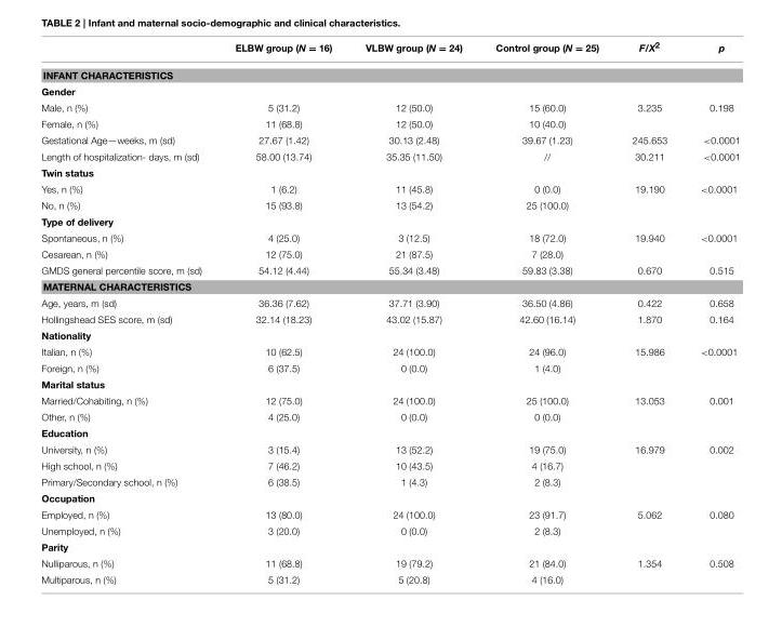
<table><thead><tr><td></td><td>ELBW group (N = 16)</td><td>VLBW group (N = 24)</td><td>Control group (N = 25)</td><td>F/X<sup>2</sup></td><td>p</td></tr></thead><tbody><tr><td colspan="6">INFANT CHARACTERISTICS</td></tr><tr><td colspan="6">Gender</td></tr><tr><td>Male, n (%)</td><td>5 (31.2)</td><td>12 (50.0)</td><td>15 (60.0)</td><td>3.235</td><td>0.198</td></tr><tr><td>Female, n (%)</td><td>11 (68.8)</td><td>12 (50.0)</td><td>10 (40.0)</td><td></td><td></td></tr><tr><td>Gestational Age—weeks, m (sd)</td><td>27.67 (1.42)</td><td>30.13 (2.48)</td><td>39.67 (1.23)</td><td>245.653</td><td>&lt;0.0001</td></tr><tr><td>Length of hospitalization- days, m (sd)</td><td>58.00 (13.74)</td><td>35.35 (11.50)</td><td>//</td><td>30.211</td><td>&lt;0.0001</td></tr><tr><td colspan="6">Twin status</td></tr><tr><td>Yes, n (%)</td><td>1 (6.2)</td><td>11 (45.8)</td><td>0 (0.0)</td><td>19.190</td><td>&lt;0.0001</td></tr><tr><td>No, n (%)</td><td>15 (93.8)</td><td>13 (54.2)</td><td>25 (100.0)</td><td></td><td></td></tr><tr><td colspan="6">Type of delivery</td></tr><tr><td>Spontaneous, n (%)</td><td>4 (25.0)</td><td>3 (12.5)</td><td>18 (72.0)</td><td>19.940</td><td>&lt;0.0001</td></tr><tr><td>Cesarean, n (%)</td><td>12 (75.0)</td><td>21 (87.5)</td><td>7 (28.0)</td><td></td><td></td></tr><tr><td>GMDS general percentile score, m (sd)</td><td>54.12 (4.44)</td><td>55.34 (3.48)</td><td>59.83 (3.38)</td><td>0.670</td><td>0.515</td></tr><tr><td colspan="6">MATERNAL CHARACTERISTICS</td></tr><tr><td>Age, years, m (sd)</td><td>36.36 (7.62)</td><td>37.71 (3.90)</td><td>36.50 (4.86)</td><td>0.422</td><td>0.658</td></tr><tr><td>Hollingshead SES score, m (sd)</td><td>32.14 (18.23)</td><td>43.02 (15.87)</td><td>42.60 (16.14)</td><td>1.870</td><td>0.164</td></tr><tr><td colspan="6">Nationality</td></tr><tr><td>Italian, n (%)</td><td>10 (62.5)</td><td>24 (100.0)</td><td>24 (96.0)</td><td>15.986</td><td>&lt;0.0001</td></tr><tr><td>Foreign, n (%)</td><td>6 (37.5)</td><td>0 (0.0)</td><td>1 (4.0)</td><td></td><td></td></tr><tr><td colspan="6">Marital status</td></tr><tr><td>Married/Cohabiting, n (%)</td><td>12 (75.0)</td><td>24 (100.0)</td><td>25 (100.0)</td><td>13.053</td><td>0.001</td></tr><tr><td>Other, n (%)</td><td>4 (25.0)</td><td>0 (0.0)</td><td>0 (0.0)</td><td></td><td></td></tr><tr><td colspan="6">Education</td></tr><tr><td>University, n (%)</td><td>3 (15.4)</td><td>13 (52.2)</td><td>19 (75.0)</td><td>16.979</td><td>0.002</td></tr><tr><td>High school, n (%)</td><td>7 (46.2)</td><td>10 (43.5)</td><td>4 (16.7)</td><td></td><td></td></tr><tr><td>Primary/Secondary school, n (%)</td><td>6 (38.5)</td><td>1 (4.3)</td><td>2 (8.3)</td><td></td><td></td></tr><tr><td colspan="6">Occupation</td></tr><tr><td>Employed, n (%)</td><td>13 (80.0)</td><td>24 (100.0)</td><td>23 (91.7)</td><td>5.062</td><td>0.080</td></tr><tr><td>Unemployed, n (%)</td><td>3 (20.0)</td><td>0 (0.0)</td><td>2 (8.3)</td><td></td><td></td></tr><tr><td colspan="6">Parity</td></tr><tr><td>Nulliparous, n (%)</td><td>11 (68.8)</td><td>19 (79.2)</td><td>21 (84.0)</td><td>1.354</td><td>0.508</td></tr><tr><td>Multiparous, n (%)</td><td>5 (31.2)</td><td>5 (20.8)</td><td>4 (16.0)</td><td></td><td></td></tr></tbody></table>